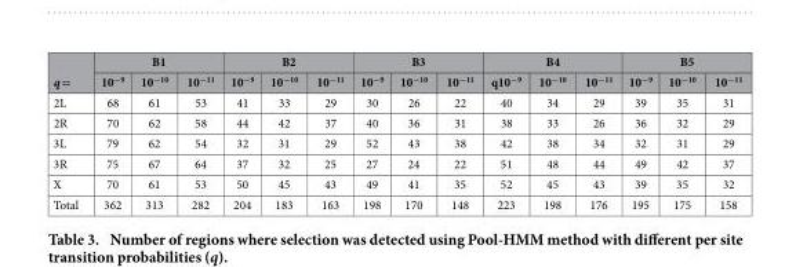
<table><thead><tr><td rowspan="2">q =</td><td colspan="3">B1</td><td colspan="3">B2</td><td colspan="3">B3</td><td colspan="3">B4</td><td colspan="3">B5</td></tr><tr><td>10<sup>−9</sup></td><td>10<sup>−10</sup></td><td>10<sup>−11</sup></td><td>10<sup>−9</sup></td><td>10<sup>−10</sup></td><td>10<sup>−11</sup></td><td>10<sup>−9</sup></td><td>10<sup>−10</sup></td><td>10<sup>−11</sup></td><td>q10<sup>−9</sup></td><td>10<sup>−10</sup></td><td>10<sup>−11</sup></td><td>10<sup>−9</sup></td><td>10<sup>−10</sup></td><td>10<sup>−11</sup></td></tr></thead><tbody><tr><td>2L</td><td>68</td><td>61</td><td>53</td><td>41</td><td>33</td><td>29</td><td>30</td><td>26</td><td>22</td><td>40</td><td>34</td><td>29</td><td>39</td><td>35</td><td>31</td></tr><tr><td>2R</td><td>70</td><td>62</td><td>58</td><td>44</td><td>42</td><td>37</td><td>40</td><td>36</td><td>31</td><td>38</td><td>33</td><td>26</td><td>36</td><td>32</td><td>29</td></tr><tr><td>3L</td><td>79</td><td>62</td><td>54</td><td>32</td><td>31</td><td>29</td><td>52</td><td>43</td><td>38</td><td>42</td><td>38</td><td>34</td><td>32</td><td>31</td><td>29</td></tr><tr><td>3R</td><td>75</td><td>67</td><td>64</td><td>37</td><td>32</td><td>25</td><td>27</td><td>24</td><td>22</td><td>51</td><td>48</td><td>44</td><td>49</td><td>42</td><td>37</td></tr><tr><td>X</td><td>70</td><td>61</td><td>53</td><td>50</td><td>45</td><td>43</td><td>49</td><td>41</td><td>35</td><td>52</td><td>45</td><td>43</td><td>39</td><td>35</td><td>32</td></tr><tr><td>Total</td><td>362</td><td>313</td><td>282</td><td>204</td><td>183</td><td>163</td><td>198</td><td>170</td><td>148</td><td>223</td><td>198</td><td>176</td><td>195</td><td>175</td><td>158</td></tr></tbody></table>